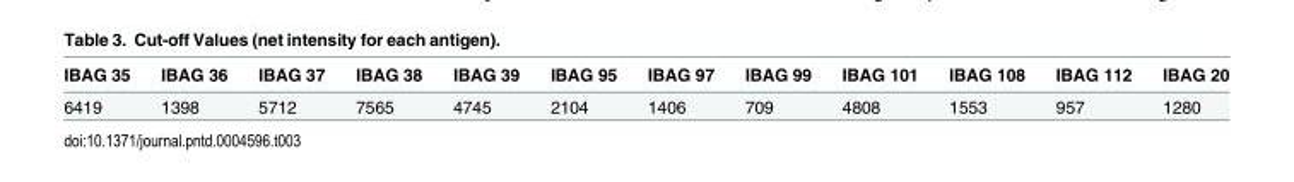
<table><thead><tr><td>IBAG 35</td><td>IBAG 36</td><td>IBAG 37</td><td>IBAG 38</td><td>IBAG 39</td><td>IBAG 95</td><td>IBAG 97</td><td>IBAG 99</td><td>IBAG 101</td><td>IBAG 108</td><td>IBAG 112</td><td>IBAG 20</td></tr></thead><tbody><tr><td>6419</td><td>1398</td><td>5712</td><td>7565</td><td>4745</td><td>2104</td><td>1406</td><td>709</td><td>4808</td><td>1553</td><td>957</td><td>1280</td></tr></tbody></table>